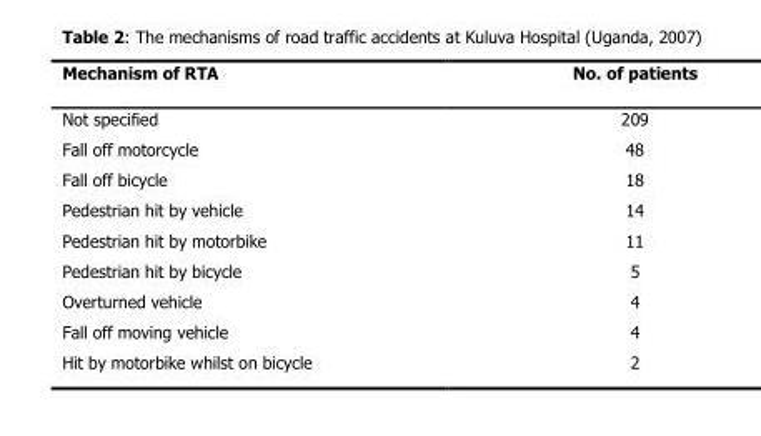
<table><thead><tr><td>Mechanism of RTA</td><td>No. of patients</td></tr></thead><tbody><tr><td>Not specified</td><td>209</td></tr><tr><td>Fall off motorcycle</td><td>48</td></tr><tr><td>Fall off bicycle</td><td>18</td></tr><tr><td>Pedestrian hit by vehicle</td><td>14</td></tr><tr><td>Pedestrian hit by motorbike</td><td>11</td></tr><tr><td>Pedestrian hit by bicycle</td><td>5</td></tr><tr><td>Overturned vehicle</td><td>4</td></tr><tr><td>Fall off moving vehicle</td><td>4</td></tr><tr><td>Hit by motorbike whilst on bicycle</td><td>2</td></tr></tbody></table>